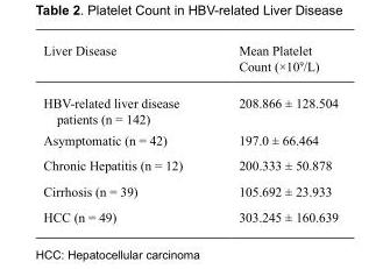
<table><thead><tr><td>Liver Disease</td><td>Mean Platelet Count (×10<sup>9</sup>/L)</td></tr></thead><tbody><tr><td>HBV-related liver disease patients (n = 142)</td><td>208.866 ± 128.504</td></tr><tr><td>Asymptomatic (n = 42)</td><td>197.0 ± 66.464</td></tr><tr><td>Chronic Hepatitis (n = 12)</td><td>200.333 ± 50.878</td></tr><tr><td>Cirrhosis (n = 39)</td><td>105.692 ± 23.933</td></tr><tr><td>HCC (n = 49)</td><td>303.245 ± 160.639</td></tr></tbody></table>